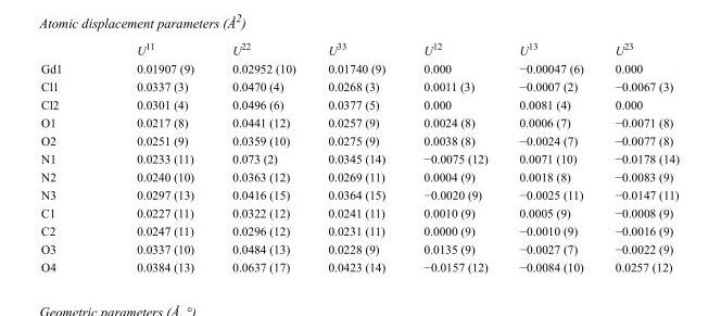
<table><thead><tr><td></td><td>U<sup>11</sup></td><td>U<sup>22</sup></td><td>U<sup>33</sup></td><td>U<sup>12</sup></td><td>U<sup>13</sup></td><td>U<sup>23</sup></td></tr></thead><tbody><tr><td>Gd1</td><td>0.01907 (9)</td><td>0.02952 (10)</td><td>0.01740 (9)</td><td>0.000</td><td>−0.00047 (6)</td><td>0.000</td></tr><tr><td>Cl1</td><td>0.0337 (3)</td><td>0.0470 (4)</td><td>0.0268 (3)</td><td>0.0011 (3)</td><td>−0.0007 (2)</td><td>−0.0067 (3)</td></tr><tr><td>Cl2</td><td>0.0301 (4)</td><td>0.0496 (6)</td><td>0.0377 (5)</td><td>0.000</td><td>0.0081 (4)</td><td>0.000</td></tr><tr><td>O1</td><td>0.0217 (8)</td><td>0.0441 (12)</td><td>0.0257 (9)</td><td>0.0024 (8)</td><td>0.0006 (7)</td><td>−0.0071 (8)</td></tr><tr><td>O2</td><td>0.0251 (9)</td><td>0.0359 (10)</td><td>0.0275 (9)</td><td>0.0038 (8)</td><td>−0.0024 (7)</td><td>−0.0077 (8)</td></tr><tr><td>N1</td><td>0.0233 (11)</td><td>0.073 (2)</td><td>0.0345 (14)</td><td>−0.0075 (12)</td><td>0.0071 (10)</td><td>−0.0178 (14)</td></tr><tr><td>N2</td><td>0.0240 (10)</td><td>0.0363 (12)</td><td>0.0269 (11)</td><td>0.0004 (9)</td><td>0.0018 (8)</td><td>−0.0083 (9)</td></tr><tr><td>N3</td><td>0.0297 (13)</td><td>0.0416 (15)</td><td>0.0364 (15)</td><td>−0.0020 (9)</td><td>−0.0025 (11)</td><td>−0.0147 (11)</td></tr><tr><td>C1</td><td>0.0227 (11)</td><td>0.0322 (12)</td><td>0.0241 (11)</td><td>0.0010 (9)</td><td>0.0005 (9)</td><td>−0.0008 (9)</td></tr><tr><td>C2</td><td>0.0247 (11)</td><td>0.0296 (12)</td><td>0.0231 (11)</td><td>0.0000 (9)</td><td>−0.0010 (9)</td><td>−0.0016 (9)</td></tr><tr><td>O3</td><td>0.0337 (10)</td><td>0.0484 (13)</td><td>0.0228 (9)</td><td>0.0135 (9)</td><td>−0.0027 (7)</td><td>−0.0022 (9)</td></tr><tr><td>O4</td><td>0.0384 (13)</td><td>0.0637 (17)</td><td>0.0423 (14)</td><td>−0.0157 (12)</td><td>−0.0084 (10)</td><td>0.0257 (12)</td></tr></tbody></table>